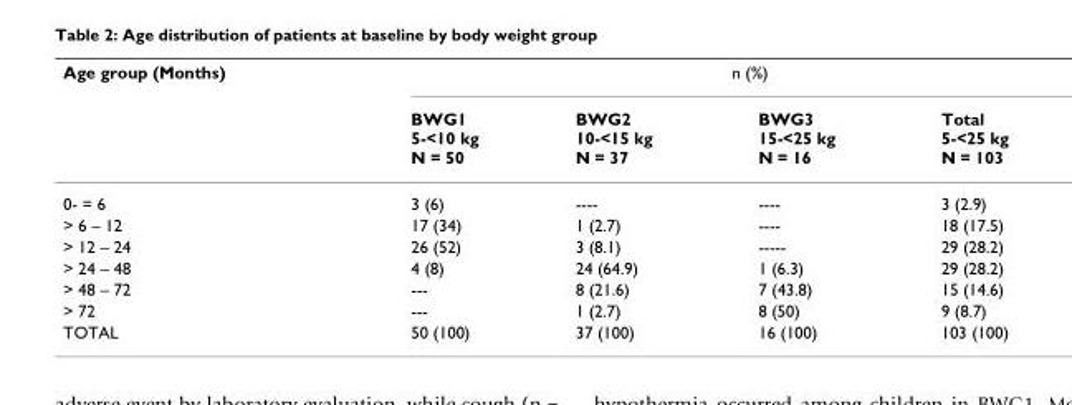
<table><thead><tr><td rowspan="2">Age group (Months)</td><td colspan="4">n (%)</td></tr><tr><td>BWG1 5-&lt;10 kg N = 50</td><td>BWG2 10-&lt;15 kg N = 37</td><td>BWG3 15-&lt;25 kg N = 16</td><td>Total 5-&lt;25 kg N = 103</td></tr></thead><tbody><tr><td>0- = 6</td><td>3 (6)</td><td>----</td><td>----</td><td>3 (2.9)</td></tr><tr><td>&gt; 6 – 12</td><td>17 (34)</td><td>1 (2.7)</td><td>----</td><td>18 (17.5)</td></tr><tr><td>&gt; 12 – 24</td><td>26 (52)</td><td>3 (8.1)</td><td>-----</td><td>29 (28.2)</td></tr><tr><td>&gt; 24 – 48</td><td>4 (8)</td><td>24 (64.9)</td><td>1 (6.3)</td><td>29 (28.2)</td></tr><tr><td>&gt; 48 – 72</td><td>---</td><td>8 (21.6)</td><td>7 (43.8)</td><td>15 (14.6)</td></tr><tr><td>&gt; 72</td><td>---</td><td>1 (2.7)</td><td>8 (50)</td><td>9 (8.7)</td></tr><tr><td>TOTAL</td><td>50 (100)</td><td>37 (100)</td><td>16 (100)</td><td>103 (100)</td></tr></tbody></table>